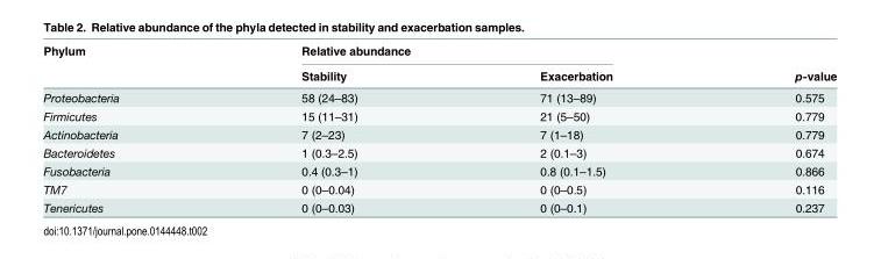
<table><thead><tr><td rowspan="2">Phylum</td><td colspan="2">Relative abundance</td><td rowspan="2">p-value</td></tr><tr><td>Stability</td><td>Exacerbation</td></tr></thead><tbody><tr><td>Proteobacteria</td><td>58 (24–83)</td><td>71 (13–89)</td><td>0.575</td></tr><tr><td>Firmicutes</td><td>15 (11–31)</td><td>21 (5–50)</td><td>0.779</td></tr><tr><td>Actinobacteria</td><td>7 (2–23)</td><td>7 (1–18)</td><td>0.779</td></tr><tr><td>Bacteroidetes</td><td>1 (0.3–2.5)</td><td>2 (0.1–3)</td><td>0.674</td></tr><tr><td>Fusobacteria</td><td>0.4 (0.3–1)</td><td>0.8 (0.1–1.5)</td><td>0.866</td></tr><tr><td>TM7</td><td>0 (0–0.04)</td><td>0 (0–0.5)</td><td>0.116</td></tr><tr><td>Tenericutes</td><td>0 (0–0.03)</td><td>0 (0–0.1)</td><td>0.237</td></tr></tbody></table>